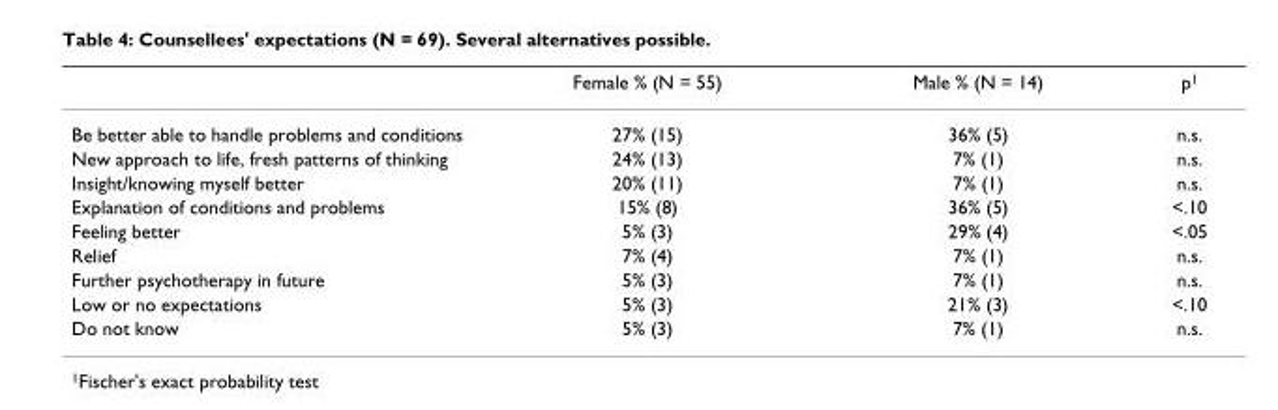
<table><thead><tr><td></td><td>Female % (N = 55)</td><td>Male % (N = 14)</td><td>p<sup>1</sup></td></tr></thead><tbody><tr><td>Be better able to handle problems and conditions</td><td>27% (15)</td><td>36% (5)</td><td>n.s.</td></tr><tr><td>New approach to life, fresh patterns of thinking</td><td>24% (13)</td><td>7% (1)</td><td>n.s.</td></tr><tr><td>Insight/knowing myself better</td><td>20% (11)</td><td>7% (1)</td><td>n.s.</td></tr><tr><td>Explanation of conditions and problems</td><td>15% (8)</td><td>36% (5)</td><td>&lt;.10</td></tr><tr><td>Feeling better</td><td>5% (3)</td><td>29% (4)</td><td>&lt;.05</td></tr><tr><td>Relief</td><td>7% (4)</td><td>7% (1)</td><td>n.s.</td></tr><tr><td>Further psychotherapy in future</td><td>5% (3)</td><td>7% (1)</td><td>n.s.</td></tr><tr><td>Low or no expectations</td><td>5% (3)</td><td>21% (3)</td><td>&lt;.10</td></tr><tr><td>Do not know</td><td>5% (3)</td><td>7% (1)</td><td>n.s.</td></tr></tbody></table>